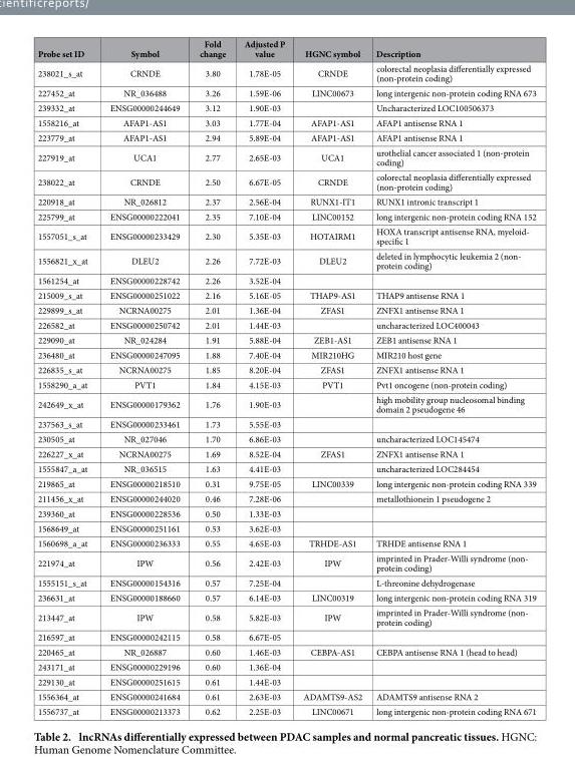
<table><thead><tr><td>Probe set ID</td><td>Symbol</td><td>Fold change</td><td>Adjusted P value</td><td>HGNC symbol</td><td>Description</td></tr></thead><tbody><tr><td>238021_s_at</td><td>CRNDE</td><td>3.80</td><td>1.78E-05</td><td>CRNDE</td><td>colorectal neoplasia differentially expressed (non-protein coding)</td></tr><tr><td>227452_at</td><td>NR_036488</td><td>3.26</td><td>1.59E-06</td><td>LINC00673</td><td>long intergenic non-protein coding RNA 673</td></tr><tr><td>239332_at</td><td>ENSG00000244649</td><td>3.12</td><td>1.90E-03</td><td></td><td>Uncharacterized LOC100506373</td></tr><tr><td>1558216_at</td><td>AFAP1-AS1</td><td>3.03</td><td>1.77E-04</td><td>AFAP1-AS1</td><td>AFAP1 antisense RNA 1</td></tr><tr><td>223779_at</td><td>AFAP1-AS1</td><td>2.94</td><td>5.89E-04</td><td>AFAP1-AS1</td><td>AFAP1 antisense RNA 1</td></tr><tr><td>227919_at</td><td>UCA1</td><td>2.77</td><td>2.65E-03</td><td>UCA1</td><td>urothelial cancer associated 1 (non-protein coding)</td></tr><tr><td>238022_at</td><td>CRNDE</td><td>2.50</td><td>6.67E-05</td><td>CRNDE</td><td>colorectal neoplasia differentially expressed (non-protein coding)</td></tr><tr><td>220918_at</td><td>NR_026812</td><td>2.37</td><td>2.56E-04</td><td>RUNX1-IT1</td><td>RUNX1 intronic transcript 1</td></tr><tr><td>225799_at</td><td>ENSG00000222041</td><td>2.35</td><td>7.10E-04</td><td>LINC00152</td><td>long intergenic non-protein coding RNA 152</td></tr><tr><td>1557051_s_at</td><td>ENSG00000233429</td><td>2.30</td><td>5.35E-03</td><td>HOTAIRM1</td><td>HOXA transcript antisense RNA, myeloid- specific 1</td></tr><tr><td>1556821_x_at</td><td>DLEU2</td><td>2.26</td><td>7.72E-03</td><td>DLEU2</td><td>deleted in lymphocytic leukemia 2 (non- protein coding)</td></tr><tr><td>1561254_at</td><td>ENSG00000228742</td><td>2.26</td><td>3.52E-04</td><td></td><td></td></tr><tr><td>215009_s_at</td><td>ENSG00000251022</td><td>2.16</td><td>5.16E-05</td><td>THAP9-AS1</td><td>THAP9 antisense RNA 1</td></tr><tr><td>229899_s_at</td><td>NCRNA00275</td><td>2.01</td><td>1.36E-04</td><td>ZFAS1</td><td>ZNFX1 antisense RNA 1</td></tr><tr><td>226582_at</td><td>ENSG00000250742</td><td>2.01</td><td>1.44E-03</td><td></td><td>uncharacterized LOC400043</td></tr><tr><td>229090_at</td><td>NR_024284</td><td>1.91</td><td>5.88E-04</td><td>ZEB1-AS1</td><td>ZEB1 antisense RNA 1</td></tr><tr><td>236480_at</td><td>ENSG00000247095</td><td>1.88</td><td>7.40E-04</td><td>MIR210HG</td><td>MIR210 host gene</td></tr><tr><td>226835_s_at</td><td>NCRNA00275</td><td>1.85</td><td>8.20E-04</td><td>ZFAS1</td><td>ZNFX1 antisense RNA 1</td></tr><tr><td>1558290_a_at</td><td>PVT1</td><td>1.84</td><td>4.15E-03</td><td>PVT1</td><td>Pvt1 oncogene (non-protein coding)</td></tr><tr><td>242649_x_at</td><td>ENSG00000179362</td><td>1.76</td><td>1.90E-03</td><td></td><td>high mobility group nucleosomal binding domain 2 pseudogene 46</td></tr><tr><td>237563_s_at</td><td>ENSG00000233461</td><td>1.73</td><td>5.55E-03</td><td></td><td></td></tr><tr><td>230505_at</td><td>NR_027046</td><td>1.70</td><td>6.86E-03</td><td></td><td>uncharacterized LOC145474</td></tr><tr><td>226227_x_at</td><td>NCRNA00275</td><td>1.69</td><td>8.52E-04</td><td>ZFAS1</td><td>ZNFX1 antisense RNA 1</td></tr><tr><td>1555847_a_at</td><td>NR_036515</td><td>1.63</td><td>4.41E-03</td><td></td><td>uncharacterized LOC284454</td></tr><tr><td>219865_at</td><td>ENSG00000218510</td><td>0.31</td><td>9.75E-05</td><td>LINC00339</td><td>long intergenic non-protein coding RNA 339</td></tr><tr><td>211456_x_at</td><td>ENSG00000244020</td><td>0.46</td><td>7.28E-06</td><td></td><td>metallothionein 1 pseudogene 2</td></tr><tr><td>239360_at</td><td>ENSG00000228536</td><td>0.50</td><td>1.33E-03</td><td></td><td></td></tr><tr><td>1568649_at</td><td>ENSG00000251161</td><td>0.53</td><td>3.62E-03</td><td></td><td></td></tr><tr><td>1560698_a_at</td><td>ENSG00000236333</td><td>0.55</td><td>4.65E-03</td><td>TRHDE-AS1</td><td>TRHDE antisense RNA 1</td></tr><tr><td>221974_at</td><td>IPW</td><td>0.56</td><td>2.42E-03</td><td>IPW</td><td>imprinted in Prader-Willi syndrome (non- protein coding)</td></tr><tr><td>1555151_s_at</td><td>ENSG00000154316</td><td>0.57</td><td>7.25E-04</td><td></td><td>L-threonine dehydrogenase</td></tr><tr><td>236631_at</td><td>ENSG00000188660</td><td>0.57</td><td>6.14E-03</td><td>LINC00319</td><td>long intergenic non-protein coding RNA 319</td></tr><tr><td>213447_at</td><td>IPW</td><td>0.58</td><td>5.82E-03</td><td>IPW</td><td>imprinted in Prader-Willi syndrome (non- protein coding)</td></tr><tr><td>216597_at</td><td>ENSG00000242115</td><td>0.58</td><td>6.67E-05</td><td></td><td></td></tr><tr><td>220465_at</td><td>NR_026887</td><td>0.60</td><td>1.46E-03</td><td>CEBPA-AS1</td><td>CEBPA antisense RNA 1 (head to head)</td></tr><tr><td>243171_at</td><td>ENSG00000229196</td><td>0.60</td><td>1.36E-04</td><td></td><td></td></tr><tr><td>229130_at</td><td>ENSG00000251615</td><td>0.61</td><td>1.44E-03</td><td></td><td></td></tr><tr><td>1556364_at</td><td>ENSG00000241684</td><td>0.61</td><td>2.63E-03</td><td>ADAMTS9-AS2</td><td>ADAMTS9 antisense RNA 2</td></tr><tr><td>1556737_at</td><td>ENSG00000213373</td><td>0.62</td><td>2.25E-03</td><td>LINC00671</td><td>long intergenic non-protein coding RNA 671</td></tr></tbody></table>